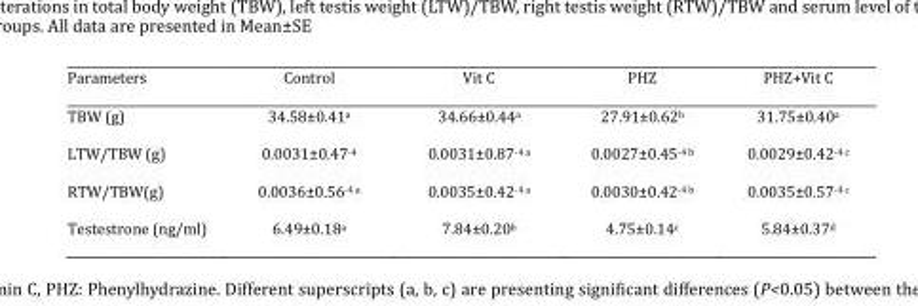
<table><thead><tr><td>Parameters</td><td>Control</td><td>Vit C</td><td>PHZ</td><td>PHZ+Vit C</td></tr></thead><tbody><tr><td>TBW (g)</td><td>34.58±0.41<sup>a</sup></td><td>34.66±0.44<sup>a</sup></td><td>27.91±0.62<sup>b</sup></td><td>31.75±0.40<sup>a</sup></td></tr><tr><td>LTW/TBW (g)</td><td>0.0031±0.47-4</td><td>0.0031±0.87<sup>-4 a</sup></td><td>0.0027±0.45<sup>-4 b</sup></td><td>0.0029±0.42<sup>-4 c</sup></td></tr><tr><td>RTW/TBW(g)</td><td>0.0036±0.56<sup>-4 a</sup></td><td>0.0035±0.42<sup>-4 a</sup></td><td>0.0030±0.42<sup>-4 b</sup></td><td>0.0035±0.57<sup>-4 c</sup></td></tr><tr><td>Testestrone (ng/ml)</td><td>6.49±0.18<sup>a</sup></td><td>7.84±0.20<sup>b</sup></td><td>4.75±0.14<sup>c</sup></td><td>5.84±0.37<sup>d</sup></td></tr></tbody></table>